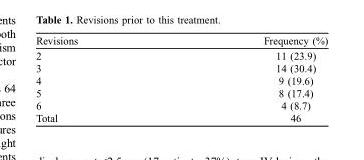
<table><thead><tr><td>Revisions</td><td>Frequency (%)</td></tr></thead><tbody><tr><td>2</td><td>11 (23.9)</td></tr><tr><td>3</td><td>14 (30.4)</td></tr><tr><td>4</td><td>9 (19.6)</td></tr><tr><td>5</td><td>8 (17.4)</td></tr><tr><td>6</td><td>4 (8.7)</td></tr><tr><td>Total</td><td>46</td></tr></tbody></table>